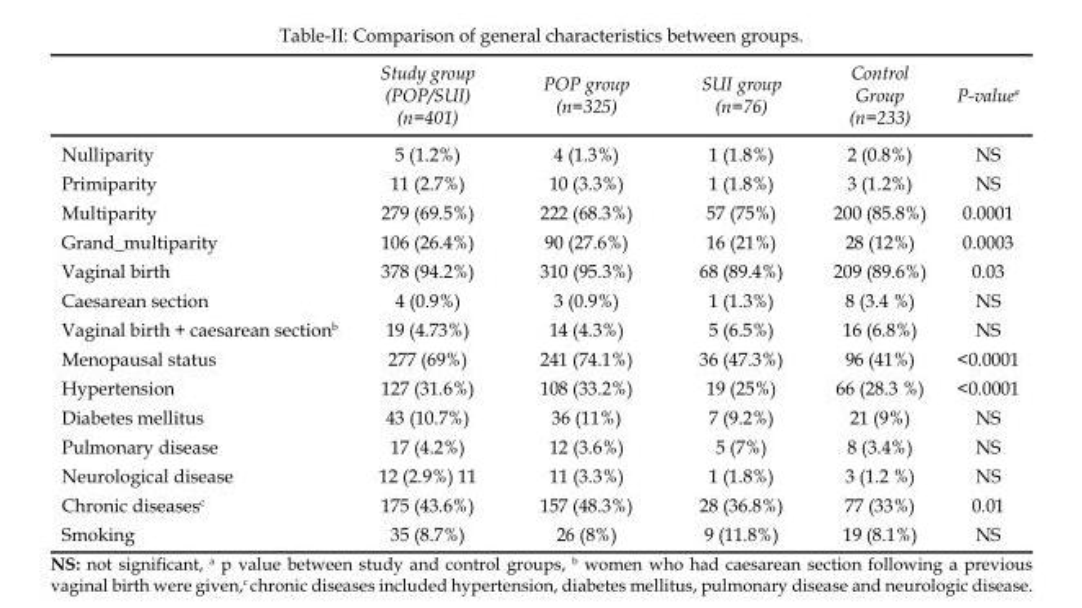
<table><thead><tr><td></td><td>Study group (POP/SUI) (n=401)</td><td>POP group (n=325)</td><td>SUI group (n=76)</td><td>Control Group (n=233)</td><td>P-value<sup>a</sup></td></tr></thead><tbody><tr><td>Nulliparity</td><td>5 (1.2%)</td><td>4 (1.3%)</td><td>1 (1.8%)</td><td>2 (0.8%)</td><td>NS</td></tr><tr><td>Primiparity</td><td>11 (2.7%)</td><td>10 (3.3%)</td><td>1 (1.8%)</td><td>3 (1.2%)</td><td>NS</td></tr><tr><td>Multiparity</td><td>279 (69.5%)</td><td>222 (68.3%)</td><td>57 (75%)</td><td>200 (85.8%)</td><td>0.0001</td></tr><tr><td>Grand_multiparity</td><td>106 (26.4%)</td><td>90 (27.6%)</td><td>16 (21%)</td><td>28 (12%)</td><td>0.0003</td></tr><tr><td>Vaginal birth</td><td>378 (94.2%)</td><td>310 (95.3%)</td><td>68 (89.4%)</td><td>209 (89.6%)</td><td>0.03</td></tr><tr><td>Caesarean section</td><td>4 (0.9%)</td><td>3 (0.9%)</td><td>1 (1.3%)</td><td>8 (3.4 %)</td><td>NS</td></tr><tr><td>Vaginal birth + caesarean section<sup>b</sup></td><td>19 (4.73%)</td><td>14 (4.3%)</td><td>5 (6.5%)</td><td>16 (6.8%)</td><td>NS</td></tr><tr><td>Menopausal status</td><td>277 (69%)</td><td>241 (74.1%)</td><td>36 (47.3%)</td><td>96 (41%)</td><td>&lt;0.0001</td></tr><tr><td>Hypertension</td><td>127 (31.6%)</td><td>108 (33.2%)</td><td>19 (25%)</td><td>66 (28.3 %)</td><td>&lt;0.0001</td></tr><tr><td>Diabetes mellitus</td><td>43 (10.7%)</td><td>36 (11%)</td><td>7 (9.2%)</td><td>21 (9%)</td><td>NS</td></tr><tr><td>Pulmonary disease</td><td>17 (4.2%)</td><td>12 (3.6%)</td><td>5 (7%)</td><td>8 (3.4%)</td><td>NS</td></tr><tr><td>Neurological disease</td><td>12 (2.9%) 11</td><td>11 (3.3%)</td><td>1 (1.8%)</td><td>3 (1.2 %)</td><td>NS</td></tr><tr><td>Chronic diseases<sup>c</sup></td><td>175 (43.6%)</td><td>157 (48.3%)</td><td>28 (36.8%)</td><td>77 (33%)</td><td>0.01</td></tr><tr><td>Smoking</td><td>35 (8.7%)</td><td>26 (8%)</td><td>9 (11.8%)</td><td>19 (8.1%)</td><td>NS</td></tr></tbody></table>